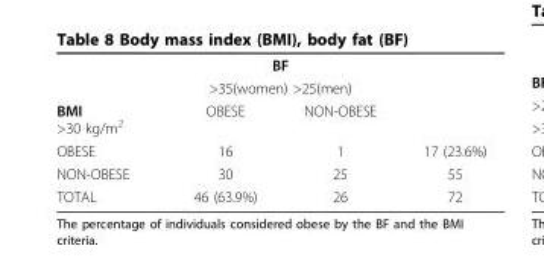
<table><tbody><tr><td colspan="4">BF</td></tr><tr><td colspan="4">&gt;35(women) &gt;25(men)</td></tr><tr><td>BMI &gt;30 kg/m<sup>2</sup></td><td>OBESE</td><td>NON-OBESE</td><td></td></tr><tr><td>OBESE</td><td>16</td><td>1</td><td>17 (23.6%)</td></tr><tr><td>NON-OBESE</td><td>30</td><td>25</td><td>55</td></tr><tr><td>TOTAL</td><td>46 (63.9%)</td><td>26</td><td>72</td></tr></tbody></table>